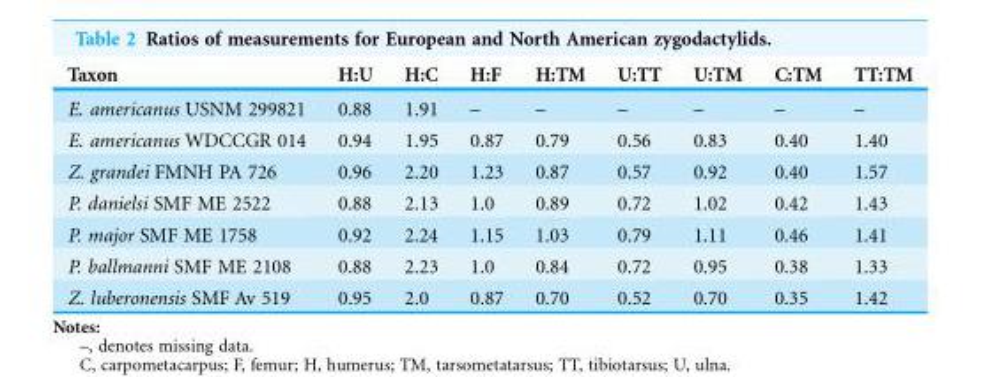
<table><thead><tr><td>Taxon</td><td>H:U</td><td>H:C</td><td>H:F</td><td>H:TM</td><td>U:TT</td><td>U:TM</td><td>C:TM</td><td>TT:TM</td></tr></thead><tbody><tr><td>E. americanus USNM 299821</td><td>0.88</td><td>1.91</td><td>–</td><td>–</td><td>–</td><td>–</td><td>–</td><td>–</td></tr><tr><td>E. americanus WDCCGR 014</td><td>0.94</td><td>1.95</td><td>0.87</td><td>0.79</td><td>0.56</td><td>0.83</td><td>0.40</td><td>1.40</td></tr><tr><td>Z. grandei FMNH PA 726</td><td>0.96</td><td>2.20</td><td>1.23</td><td>0.87</td><td>0.57</td><td>0.92</td><td>0.40</td><td>1.57</td></tr><tr><td>P. danielsi SMF ME 2522</td><td>0.88</td><td>2.13</td><td>1.0</td><td>0.89</td><td>0.72</td><td>1.02</td><td>0.42</td><td>1.43</td></tr><tr><td>P. major SMF ME 1758</td><td>0.92</td><td>2.24</td><td>1.15</td><td>1.03</td><td>0.79</td><td>1.11</td><td>0.46</td><td>1.41</td></tr><tr><td>P. ballmanni SMF ME 2108</td><td>0.88</td><td>2.23</td><td>1.0</td><td>0.84</td><td>0.72</td><td>0.95</td><td>0.38</td><td>1.33</td></tr><tr><td>Z. luberonensis SMF Av 519</td><td>0.95</td><td>2.0</td><td>0.87</td><td>0.70</td><td>0.52</td><td>0.70</td><td>0.35</td><td>1.42</td></tr></tbody></table>